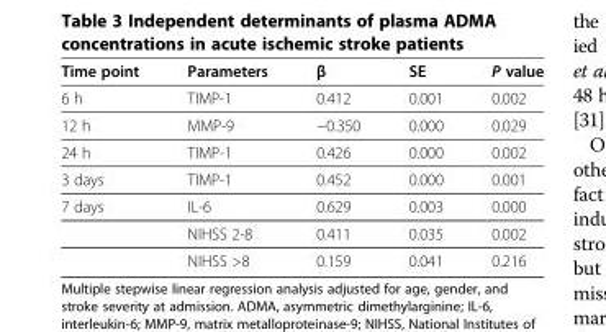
<table><thead><tr><td>Time point</td><td>Parameters</td><td>β</td><td>SE</td><td>P value</td></tr></thead><tbody><tr><td>6 h</td><td>TIMP-1</td><td>0.412</td><td>0.001</td><td>0.002</td></tr><tr><td>12 h</td><td>MMP-9</td><td>−0.350</td><td>0.000</td><td>0.029</td></tr><tr><td>24 h</td><td>TIMP-1</td><td>0.426</td><td>0.000</td><td>0.002</td></tr><tr><td>3 days</td><td>TIMP-1</td><td>0.452</td><td>0.000</td><td>0.001</td></tr><tr><td rowspan="3">7 days</td><td>IL-6</td><td>0.629</td><td>0.003</td><td>0.000</td></tr><tr><td>NIHSS 2-8</td><td>0.411</td><td>0.035</td><td>0.002</td></tr><tr><td>NIHSS &gt;8</td><td>0.159</td><td>0.041</td><td>0.216</td></tr></tbody></table>